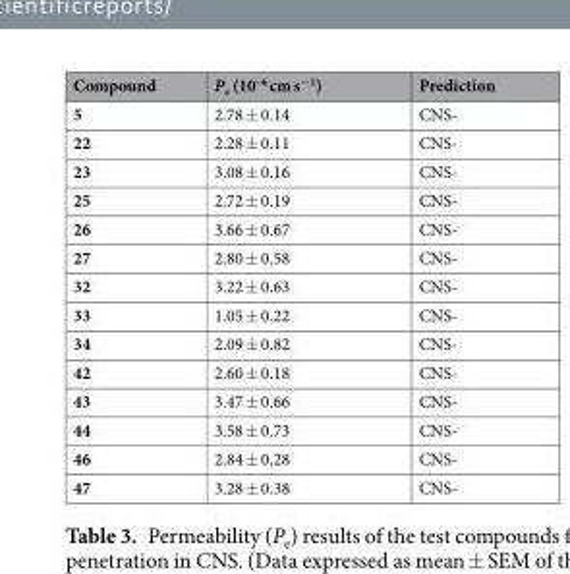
<table><thead><tr><td>Compound</td><td>P<sub>e</sub> (10<sup>–6</sup> cm s<sup>−1</sup>)</td><td>Prediction</td></tr></thead><tbody><tr><td>5</td><td>2.78 ± 0.14</td><td>CNS-</td></tr><tr><td>22</td><td>2.28 ± 0.11</td><td>CNS-</td></tr><tr><td>23</td><td>3.08 ± 0.16</td><td>CNS-</td></tr><tr><td>25</td><td>2.72 ± 0.19</td><td>CNS-</td></tr><tr><td>26</td><td>3.66 ± 0.67</td><td>CNS-</td></tr><tr><td>27</td><td>2.80 ± 0.58</td><td>CNS-</td></tr><tr><td>32</td><td>3.22 ± 0.63</td><td>CNS-</td></tr><tr><td>33</td><td>1.05 ± 0.22</td><td>CNS-</td></tr><tr><td>34</td><td>2.09 ± 0.82</td><td>CNS-</td></tr><tr><td>42</td><td>2.60 ± 0.18</td><td>CNS-</td></tr><tr><td>43</td><td>3.47 ± 0.66</td><td>CNS-</td></tr><tr><td>44</td><td>3.58 ± 0.73</td><td>CNS-</td></tr><tr><td>46</td><td>2.84 ± 0.28</td><td>CNS-</td></tr><tr><td>47</td><td>3.28 ± 0.38</td><td>CNS-</td></tr></tbody></table>